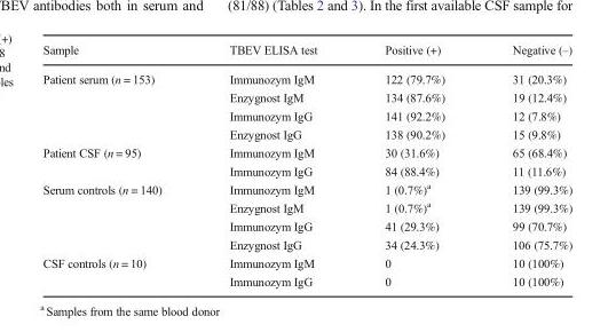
<table><thead><tr><td>Sample</td><td>TBEV ELISA test</td><td>Positive (+)</td><td>Negative (–)</td></tr></thead><tbody><tr><td rowspan="4">Patient serum (n = 153)</td><td>Immunozym IgM</td><td>122 (79.7%)</td><td>31 (20.3%)</td></tr><tr><td>Enzygnost IgM</td><td>134 (87.6%)</td><td>19 (12.4%)</td></tr><tr><td>Immunozym IgG</td><td>141 (92.2%)</td><td>12 (7.8%)</td></tr><tr><td>Enzygnost IgG</td><td>138 (90.2%)</td><td>15 (9.8%)</td></tr><tr><td rowspan="2">Patient CSF (n = 95)</td><td>Immunozym IgM</td><td>30 (31.6%)</td><td>65 (68.4%)</td></tr><tr><td>Immunozym IgG</td><td>84 (88.4%)</td><td>11 (11.6%)</td></tr><tr><td rowspan="4">Serum controls (n = 140)</td><td>Immunozym IgM</td><td>1 (0.7%)<sup>a</sup></td><td>139 (99.3%)</td></tr><tr><td>Enzygnost IgM</td><td>1 (0.7%)<sup>a</sup></td><td>139 (99.3%)</td></tr><tr><td>Immunozym IgG</td><td>41 (29.3%)</td><td>99 (70.7%)</td></tr><tr><td>Enzygnost IgG</td><td>34 (24.3%)</td><td>106 (75.7%)</td></tr><tr><td rowspan="2">CSF controls (n = 10)</td><td>Immunozym IgM</td><td>0</td><td>10 (100%)</td></tr><tr><td>Immunozym IgG</td><td>0</td><td>10 (100%)</td></tr></tbody></table>